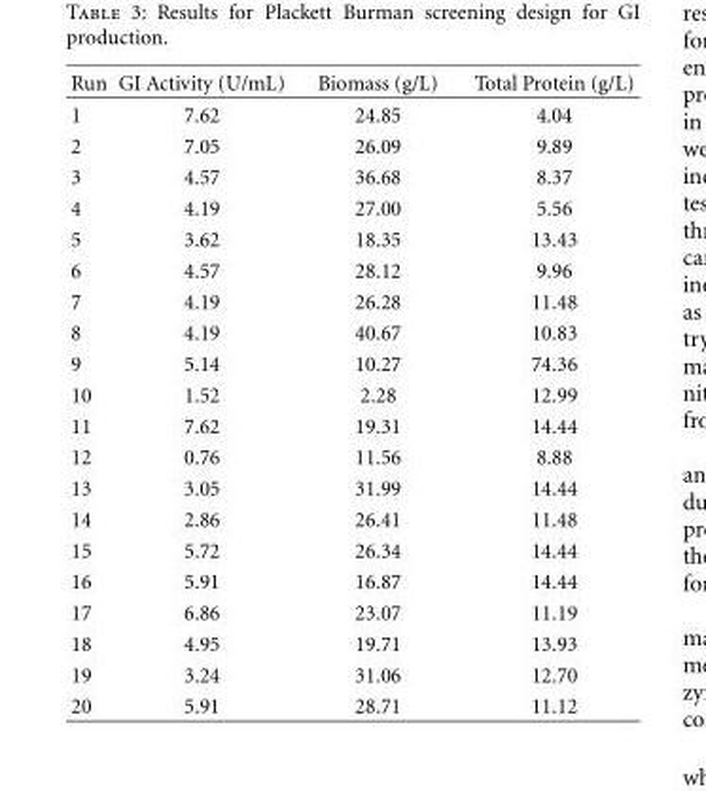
<table><thead><tr><td>Run</td><td>GI Activity (U/mL)</td><td>Biomass (g/L)</td><td>Total Protein (g/L)</td></tr></thead><tbody><tr><td>1</td><td>7.62</td><td>24.85</td><td>4.04</td></tr><tr><td>2</td><td>7.05</td><td>26.09</td><td>9.89</td></tr><tr><td>3</td><td>4.57</td><td>36.68</td><td>8.37</td></tr><tr><td>4</td><td>4.19</td><td>27.00</td><td>5.56</td></tr><tr><td>5</td><td>3.62</td><td>18.35</td><td>13.43</td></tr><tr><td>6</td><td>4.57</td><td>28.12</td><td>9.96</td></tr><tr><td>7</td><td>4.19</td><td>26.28</td><td>11.48</td></tr><tr><td>8</td><td>4.19</td><td>40.67</td><td>10.83</td></tr><tr><td>9</td><td>5.14</td><td>10.27</td><td>74.36</td></tr><tr><td>10</td><td>1.52</td><td>2.28</td><td>12.99</td></tr><tr><td>11</td><td>7.62</td><td>19.31</td><td>14.44</td></tr><tr><td>12</td><td>0.76</td><td>11.56</td><td>8.88</td></tr><tr><td>13</td><td>3.05</td><td>31.99</td><td>14.44</td></tr><tr><td>14</td><td>2.86</td><td>26.41</td><td>11.48</td></tr><tr><td>15</td><td>5.72</td><td>26.34</td><td>14.44</td></tr><tr><td>16</td><td>5.91</td><td>16.87</td><td>14.44</td></tr><tr><td>17</td><td>6.86</td><td>23.07</td><td>11.19</td></tr><tr><td>18</td><td>4.95</td><td>19.71</td><td>13.93</td></tr><tr><td>19</td><td>3.24</td><td>31.06</td><td>12.70</td></tr><tr><td>20</td><td>5.91</td><td>28.71</td><td>11.12</td></tr></tbody></table>